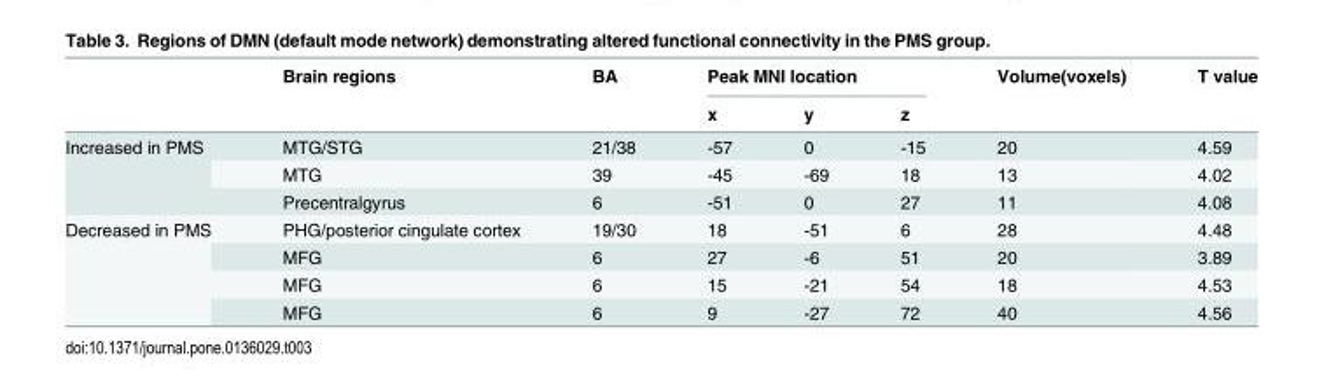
<table><thead><tr><td rowspan="2"></td><td rowspan="2">Brain regions</td><td rowspan="2">BA</td><td colspan="3">Peak MNI location</td><td rowspan="2">Volume(voxels)</td><td rowspan="2">T value</td></tr><tr><td>x</td><td>y</td><td>z</td></tr></thead><tbody><tr><td rowspan="3">Increased in PMS</td><td>MTG/STG</td><td>21/38</td><td>-57</td><td>0</td><td>-15</td><td>20</td><td>4.59</td></tr><tr><td>MTG</td><td>39</td><td>-45</td><td>-69</td><td>18</td><td>13</td><td>4.02</td></tr><tr><td>Precentralgyrus</td><td>6</td><td>-51</td><td>0</td><td>27</td><td>11</td><td>4.08</td></tr><tr><td rowspan="4">Decreased in PMS</td><td>PHG/posterior cingulate cortex</td><td>19/30</td><td>18</td><td>-51</td><td>6</td><td>28</td><td>4.48</td></tr><tr><td>MFG</td><td>6</td><td>27</td><td>-6</td><td>51</td><td>20</td><td>3.89</td></tr><tr><td>MFG</td><td>6</td><td>15</td><td>-21</td><td>54</td><td>18</td><td>4.53</td></tr><tr><td>MFG</td><td>6</td><td>9</td><td>-27</td><td>72</td><td>40</td><td>4.56</td></tr></tbody></table>